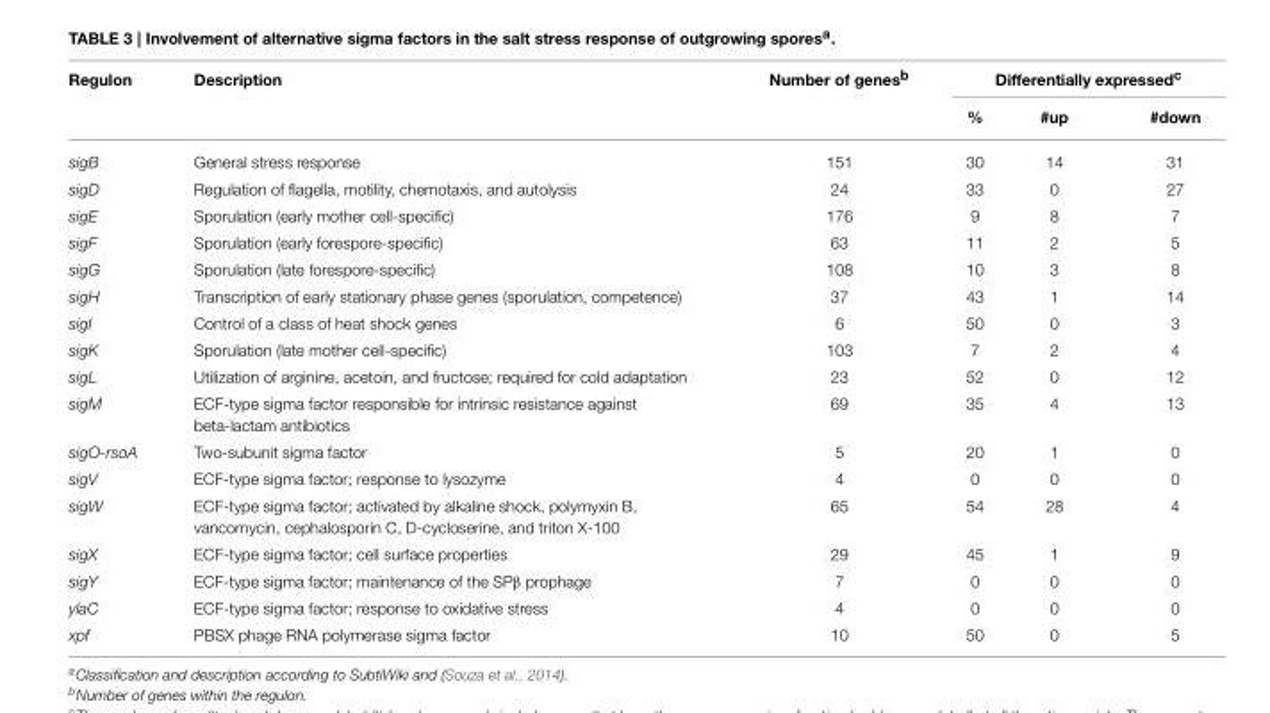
<table><thead><tr><td rowspan="2">Regulon</td><td rowspan="2">Description</td><td rowspan="2">Number of genes<sup>b</sup></td><td colspan="3">Differentially expressed<sup>c</sup></td></tr><tr><td>%</td><td>#up</td><td>#down</td></tr></thead><tbody><tr><td>sigB</td><td>General stress response</td><td>151</td><td>30</td><td>14</td><td>31</td></tr><tr><td>sigD</td><td>Regulation of flagella, motility, chemotaxis, and autolysis</td><td>24</td><td>33</td><td>0</td><td>27</td></tr><tr><td>sigE</td><td>Sporulation (early mother cell-specific)</td><td>176</td><td>9</td><td>8</td><td>7</td></tr><tr><td>sigF</td><td>Sporulation (early forespore-specific)</td><td>63</td><td>11</td><td>2</td><td>5</td></tr><tr><td>sigG</td><td>Sporulation (late forespore-specific)</td><td>108</td><td>10</td><td>3</td><td>8</td></tr><tr><td>sigH</td><td>Transcription of early stationary phase genes (sporulation, competence)</td><td>37</td><td>43</td><td>1</td><td>14</td></tr><tr><td>sigI</td><td>Control of a class of heat shock genes</td><td>6</td><td>50</td><td>0</td><td>3</td></tr><tr><td>sigK</td><td>Sporulation (late mother cell-specific)</td><td>103</td><td>7</td><td>2</td><td>4</td></tr><tr><td>sigL</td><td>Utilization of arginine, acetoin, and fructose; required for cold adaptation</td><td>23</td><td>52</td><td>0</td><td>12</td></tr><tr><td>sigM</td><td>ECF-type sigma factor responsible for intrinsic resistance against beta-lactam antibiotics</td><td>69</td><td>35</td><td>4</td><td>13</td></tr><tr><td>sigO-rsoA</td><td>Two-subunit sigma factor</td><td>5</td><td>20</td><td>1</td><td>0</td></tr><tr><td>sigV</td><td>ECF-type sigma factor; response to lysozyme</td><td>4</td><td>0</td><td>0</td><td>0</td></tr><tr><td>sigW</td><td>ECF-type sigma factor; activated by alkaline shock, polymyxin B, vancomycin, cephalosporin C, D-cycloserine, and triton X-100</td><td>65</td><td>54</td><td>28</td><td>4</td></tr><tr><td>sigX</td><td>ECF-type sigma factor; cell surface properties</td><td>29</td><td>45</td><td>1</td><td>9</td></tr><tr><td>sigY</td><td>ECF-type sigma factor; maintenance of the SPβ prophage</td><td>7</td><td>0</td><td>0</td><td>0</td></tr><tr><td>ylaC</td><td>ECF-type sigma factor; response to oxidative stress</td><td>4</td><td>0</td><td>0</td><td>0</td></tr><tr><td>xpf</td><td>PBSX phage RNA polymerase sigma factor</td><td>10</td><td>50</td><td>0</td><td>5</td></tr></tbody></table>